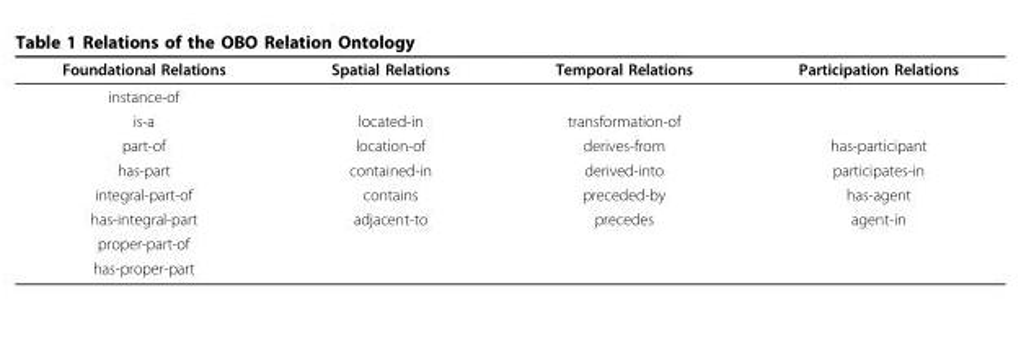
<table><thead><tr><td>Foundational Relations</td><td>Spatial Relations</td><td>Temporal Relations</td><td>Participation Relations</td></tr></thead><tbody><tr><td colspan="4">instance-of</td></tr><tr><td>is-a</td><td>located-in</td><td>transformation-of</td><td></td></tr><tr><td>part-of</td><td>location-of</td><td>derives-from</td><td>has-participant</td></tr><tr><td>has-part</td><td>contained-in</td><td>derived-into</td><td>participates-in</td></tr><tr><td>integral-part-of</td><td>contains</td><td>preceded-by</td><td>has-agent</td></tr><tr><td>has-integral-part</td><td>adjacent-to</td><td>precedes</td><td>agent-in</td></tr><tr><td colspan="4">proper-part-of</td></tr><tr><td>has-proper-part</td><td></td><td></td><td></td></tr></tbody></table>